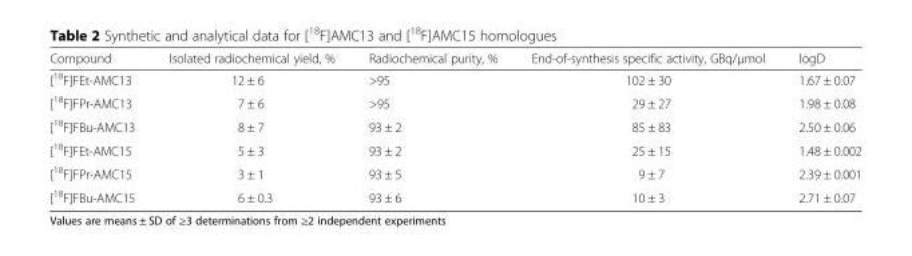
<table><thead><tr><td>Compound</td><td>Isolated radiochemical yield, %</td><td>Radiochemical purity, %</td><td>End-of-synthesis specific activity, GBq/μmol</td><td>logD</td></tr></thead><tbody><tr><td>[<sup>18</sup>F]FEt-AMC13</td><td>12 ± 6</td><td>&gt;95</td><td>102 ± 30</td><td>1.67 ± 0.07</td></tr><tr><td>[<sup>18</sup>F]FPr-AMC13</td><td>7 ± 6</td><td>&gt;95</td><td>29 ± 27</td><td>1.98 ± 0.08</td></tr><tr><td>[<sup>18</sup>F]FBu-AMC13</td><td>8 ± 7</td><td>93 ± 2</td><td>85 ± 83</td><td>2.50 ± 0.06</td></tr><tr><td>[<sup>18</sup>F]FEt-AMC15</td><td>5 ± 3</td><td>93 ± 2</td><td>25 ± 15</td><td>1.48 ± 0.002</td></tr><tr><td>[<sup>18</sup>F]FPr-AMC15</td><td>3 ± 1</td><td>93 ± 5</td><td>9 ± 7</td><td>2.39 ± 0.001</td></tr><tr><td>[<sup>18</sup>F]FBu-AMC15</td><td>6 ± 0.3</td><td>93 ± 6</td><td>10 ± 3</td><td>2.71 ± 0.07</td></tr></tbody></table>